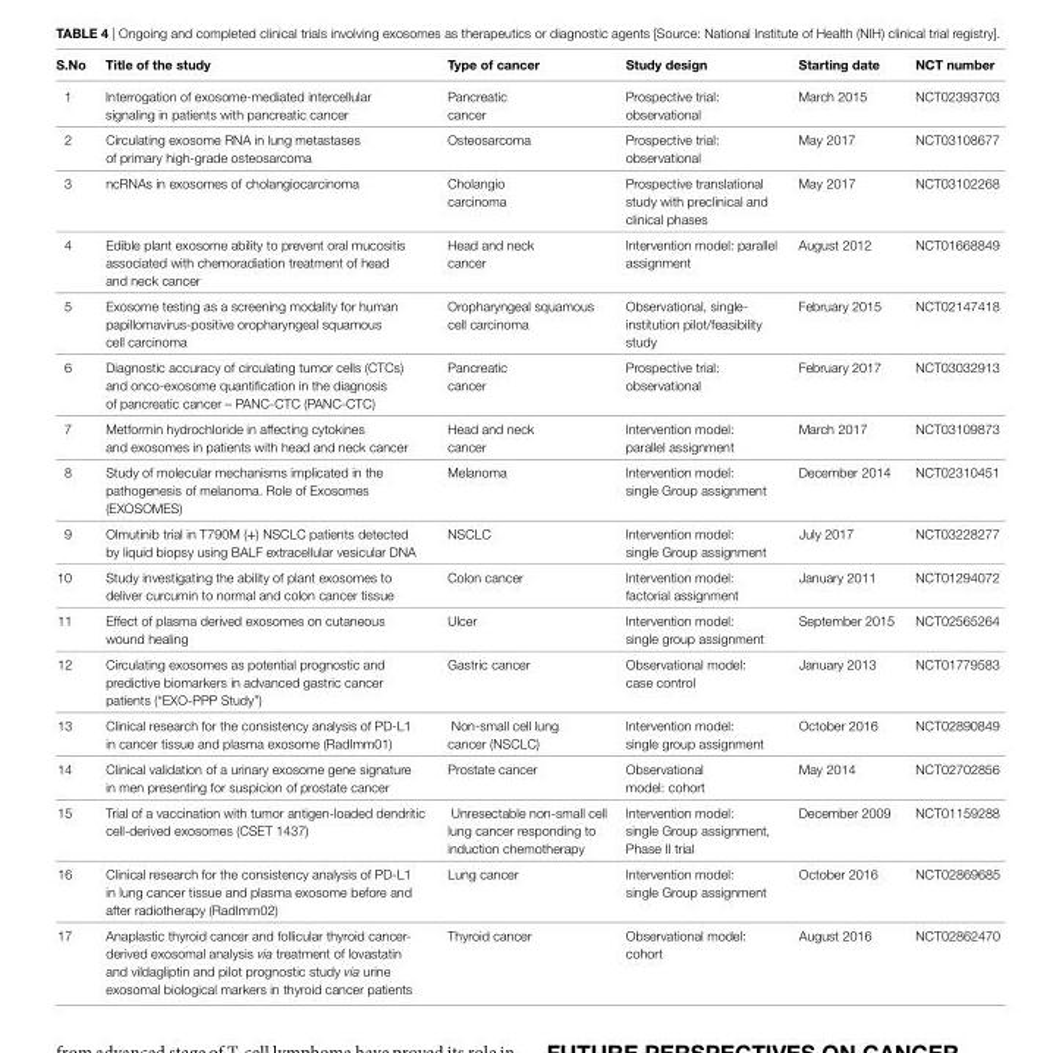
<table><thead><tr><td>S.No</td><td>Title of the study</td><td>Type of cancer</td><td>Study design</td><td>Starting date</td><td>NCT number</td></tr></thead><tbody><tr><td>1</td><td>Interrogation of exosome-mediated intercellular signaling in patients with pancreatic cancer</td><td>Pancreatic cancer</td><td>Prospective trial: observational</td><td>March 2015</td><td>NCT02393703</td></tr><tr><td>2</td><td>Circulating exosome RNA in lung metastases of primary high-grade osteosarcoma</td><td>Osteosarcoma</td><td>Prospective trial: observational</td><td>May 2017</td><td>NCT03108677</td></tr><tr><td>3</td><td>ncRNAs in exosomes of cholangiocarcinoma</td><td>Cholangio carcinoma</td><td>Prospective translational study with preclinical and clinical phases</td><td>May 2017</td><td>NCT03102268</td></tr><tr><td>4</td><td>Edible plant exosome ability to prevent oral mucositis associated with chemoradiation treatment of head and neck cancer</td><td>Head and neck cancer</td><td>Intervention model: parallel assignment</td><td>August 2012</td><td>NCT01668849</td></tr><tr><td>5</td><td>Exosome testing as a screening modality for human papillomavirus-positive oropharyngeal squamous cell carcinoma</td><td>Oropharyngeal squamous cell carcinoma</td><td>Observational, single- institution pilot/feasibility study</td><td>February 2015</td><td>NCT02147418</td></tr><tr><td>6</td><td>Diagnostic accuracy of circulating tumor cells (CTCs) and onco-exosome quantification in the diagnosis of pancreatic cancer – PANC-CTC (PANC-CTC)</td><td>Pancreatic cancer</td><td>Prospective trial: observational</td><td>February 2017</td><td>NCT03032913</td></tr><tr><td>7</td><td>Metformin hydrochloride in affecting cytokines and exosomes in patients with head and neck cancer</td><td>Head and neck cancer</td><td>Intervention model: parallel assignment</td><td>March 2017</td><td>NCT03109873</td></tr><tr><td>8</td><td>Study of molecular mechanisms implicated in the pathogenesis of melanoma. Role of Exosomes (EXOSOMES)</td><td>Melanoma</td><td>Intervention model: single Group assignment</td><td>December 2014</td><td>NCT02310451</td></tr><tr><td>9</td><td>Olmutinib trial in T790M (+) NSCLC patients detected by liquid biopsy using BALF extracellular vesicular DNA</td><td>NSCLC</td><td>Intervention model: single Group assignment</td><td>July 2017</td><td>NCT03228277</td></tr><tr><td>10</td><td>Study investigating the ability of plant exosomes to deliver curcumin to normal and colon cancer tissue</td><td>Colon cancer</td><td>Intervention model: factorial assignment</td><td>January 2011</td><td>NCT01294072</td></tr><tr><td>11</td><td>Effect of plasma derived exosomes on cutaneous wound healing</td><td>Ulcer</td><td>Intervention model: single group assignment</td><td>September 2015</td><td>NCT02565264</td></tr><tr><td>12</td><td>Circulating exosomes as potential prognostic and predictive biomarkers in advanced gastric cancer patients (“EXO-PPP Study”)</td><td>Gastric cancer</td><td>Observational model: case control</td><td>January 2013</td><td>NCT01779583</td></tr><tr><td>13</td><td>Clinical research for the consistency analysis of PD-L1 in cancer tissue and plasma exosome (RadImm01)</td><td>Non-small cell lung cancer (NSCLC)</td><td>Intervention model: single group assignment</td><td>October 2016</td><td>NCT02890849</td></tr><tr><td>14</td><td>Clinical validation of a urinary exosome gene signature in men presenting for suspicion of prostate cancer</td><td>Prostate cancer</td><td>Observational model: cohort</td><td>May 2014</td><td>NCT02702856</td></tr><tr><td>15</td><td>Trial of a vaccination with tumor antigen-loaded dendritic cell-derived exosomes (CSET 1437)</td><td>Unresectable non-small cell lung cancer responding to induction chemotherapy</td><td>Intervention model: single Group assignment, Phase II trial</td><td>December 2009</td><td>NCT01159288</td></tr><tr><td>16</td><td>Clinical research for the consistency analysis of PD-L1 in lung cancer tissue and plasma exosome before and after radiotherapy (RadImm02)</td><td>Lung cancer</td><td>Intervention model: single Group assignment</td><td>October 2016</td><td>NCT02869685</td></tr><tr><td>17</td><td>Anaplastic thyroid cancer and follicular thyroid cancer- derived exosomal analysis via treatment of lovastatin and vildagliptin and pilot prognostic study via urine exosomal biological markers in thyroid cancer patients</td><td>Thyroid cancer</td><td>Observational model: cohort</td><td>August 2016</td><td>NCT02862470</td></tr></tbody></table>